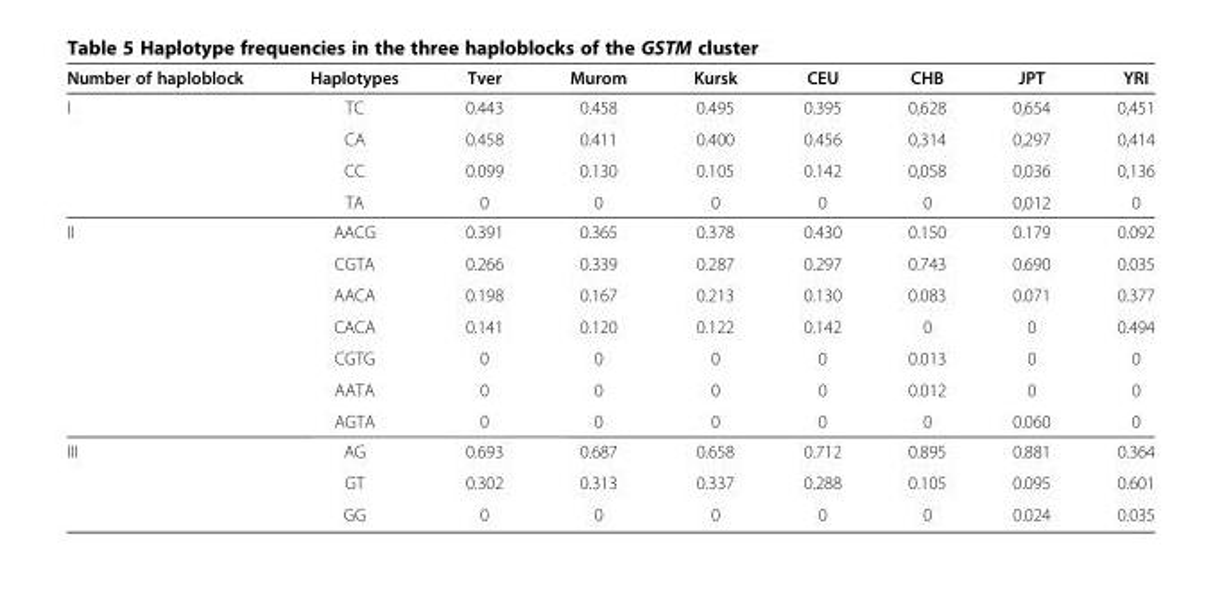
<table><thead><tr><td>Number of haploblock</td><td>Haplotypes</td><td>Tver</td><td>Murom</td><td>Kursk</td><td>CEU</td><td>CHB</td><td>JPT</td><td>YRI</td></tr></thead><tbody><tr><td rowspan="4">I</td><td>TC</td><td>0.443</td><td>0.458</td><td>0.495</td><td>0.395</td><td>0,628</td><td>0,654</td><td>0,451</td></tr><tr><td>CA</td><td>0.458</td><td>0.411</td><td>0.400</td><td>0.456</td><td>0,314</td><td>0,297</td><td>0,414</td></tr><tr><td>CC</td><td>0.099</td><td>0.130</td><td>0.105</td><td>0.142</td><td>0,058</td><td>0,036</td><td>0,136</td></tr><tr><td>ТА</td><td>0</td><td>0</td><td>0</td><td>0</td><td>0</td><td>0,012</td><td>0</td></tr><tr><td rowspan="7">II</td><td>AACG</td><td>0.391</td><td>0.365</td><td>0.378</td><td>0.430</td><td>0.150</td><td>0.179</td><td>0.092</td></tr><tr><td>CGTA</td><td>0.266</td><td>0.339</td><td>0.287</td><td>0.297</td><td>0.743</td><td>0.690</td><td>0.035</td></tr><tr><td>AACA</td><td>0.198</td><td>0.167</td><td>0.213</td><td>0.130</td><td>0.083</td><td>0.071</td><td>0.377</td></tr><tr><td>CACA</td><td>0.141</td><td>0.120</td><td>0.122</td><td>0.142</td><td>0</td><td>0</td><td>0.494</td></tr><tr><td>CGTG</td><td>0</td><td>0</td><td>0</td><td>0</td><td>0.013</td><td>0</td><td>0</td></tr><tr><td>AATA</td><td>0</td><td>0</td><td>0</td><td>0</td><td>0.012</td><td>0</td><td>0</td></tr><tr><td>AGTA</td><td>0</td><td>0</td><td>0</td><td>0</td><td>0</td><td>0.060</td><td>0</td></tr><tr><td rowspan="3">III</td><td>AG</td><td>0.693</td><td>0.687</td><td>0.658</td><td>0.712</td><td>0.895</td><td>0.881</td><td>0.364</td></tr><tr><td>GT</td><td>0.302</td><td>0.313</td><td>0.337</td><td>0.288</td><td>0.105</td><td>0.095</td><td>0.601</td></tr><tr><td>GG</td><td>0</td><td>0</td><td>0</td><td>0</td><td>0</td><td>0.024</td><td>0.035</td></tr></tbody></table>